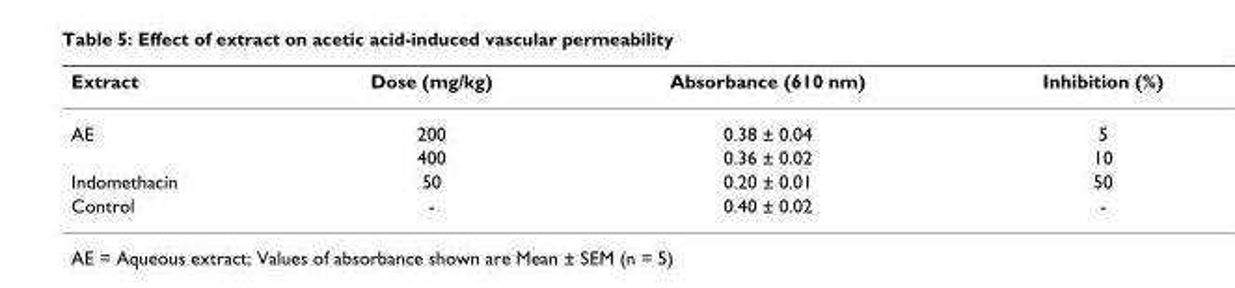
<table><thead><tr><td>Extract</td><td>Dose (mg/kg)</td><td>Absorbance (610 nm)</td><td>Inhibition (%)</td></tr></thead><tbody><tr><td rowspan="2">AE</td><td>200</td><td>0.38 ± 0.04</td><td>5</td></tr><tr><td>400</td><td>0.36 ± 0.02</td><td>10</td></tr><tr><td>Indomethacin</td><td>50</td><td>0.20 ± 0.01</td><td>50</td></tr><tr><td>Control</td><td>-</td><td>0.40 ± 0.02</td><td>-</td></tr></tbody></table>